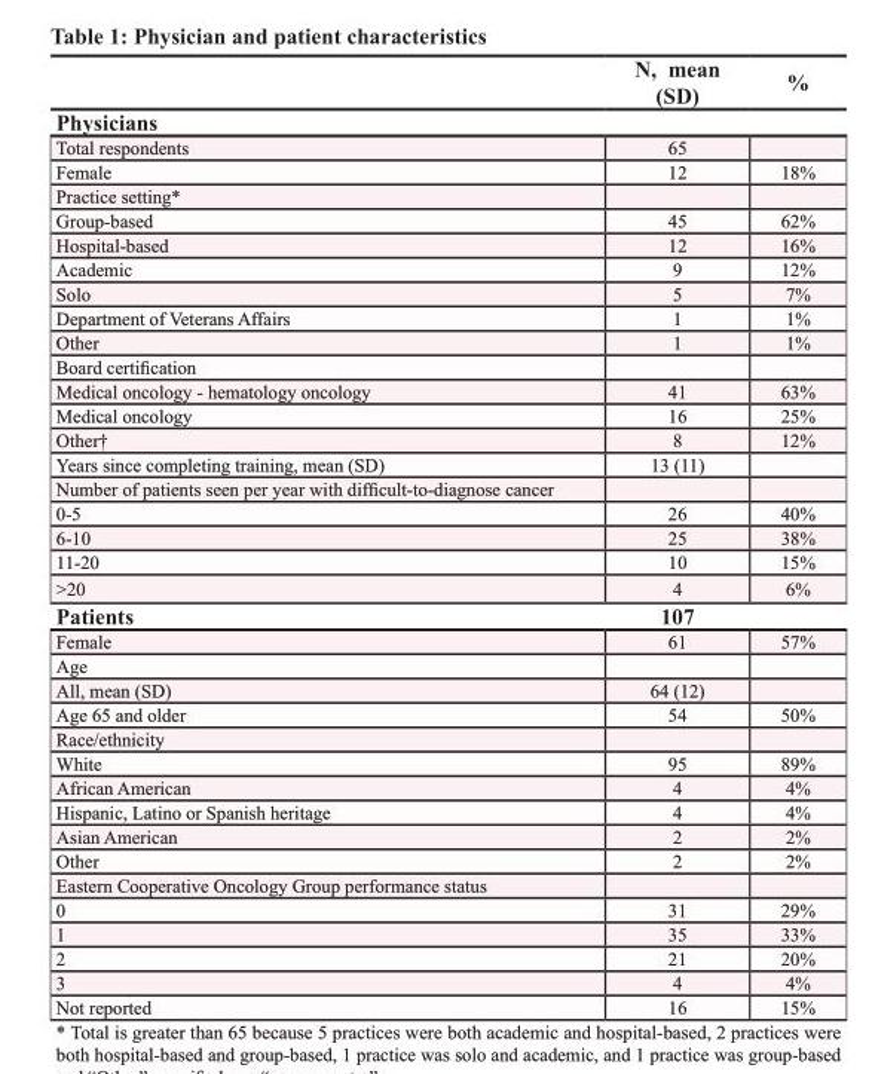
<table><thead><tr><td></td><td>N, mean (SD)</td><td>%</td></tr></thead><tbody><tr><td colspan="3">Physicians</td></tr><tr><td>Total respondents</td><td>65</td><td></td></tr><tr><td>Female</td><td>12</td><td>18%</td></tr><tr><td colspan="3">Practice setting*</td></tr><tr><td>Group-based</td><td>45</td><td>62%</td></tr><tr><td>Hospital-based</td><td>12</td><td>16%</td></tr><tr><td>Academic</td><td>9</td><td>12%</td></tr><tr><td>Solo</td><td>5</td><td>7%</td></tr><tr><td>Department of Veterans Affairs</td><td>1</td><td>1%</td></tr><tr><td>Other</td><td>1</td><td>1%</td></tr><tr><td colspan="3">Board certification</td></tr><tr><td>Medical oncology - hematology oncology</td><td>41</td><td>63%</td></tr><tr><td>Medical oncology</td><td>16</td><td>25%</td></tr><tr><td>Other<sup>†</sup></td><td>8</td><td>12%</td></tr><tr><td>Years since completing training, mean (SD)</td><td>13 (11)</td><td></td></tr><tr><td colspan="3">Number of patients seen per year with difficult-to-diagnose cancer</td></tr><tr><td>0-5</td><td>26</td><td>40%</td></tr><tr><td>6-10</td><td>25</td><td>38%</td></tr><tr><td>11-20</td><td>10</td><td>15%</td></tr><tr><td>&gt;20</td><td>4</td><td>6%</td></tr><tr><td>Patients</td><td>107</td><td></td></tr><tr><td>Female</td><td>61</td><td>57%</td></tr><tr><td colspan="3">Age</td></tr><tr><td>All, mean (SD)</td><td>64 (12)</td><td></td></tr><tr><td>Age 65 and older</td><td>54</td><td>50%</td></tr><tr><td colspan="3">Race/ethnicity</td></tr><tr><td>White</td><td>95</td><td>89%</td></tr><tr><td>African American</td><td>4</td><td>4%</td></tr><tr><td>Hispanic, Latino or Spanish heritage</td><td>4</td><td>4%</td></tr><tr><td>Asian American</td><td>2</td><td>2%</td></tr><tr><td>Other</td><td>2</td><td>2%</td></tr><tr><td colspan="3">Eastern Cooperative Oncology Group performance status</td></tr><tr><td>0</td><td>31</td><td>29%</td></tr><tr><td>1</td><td>35</td><td>33%</td></tr><tr><td>2</td><td>21</td><td>20%</td></tr><tr><td>3</td><td>4</td><td>4%</td></tr><tr><td>Not reported</td><td>16</td><td>15%</td></tr></tbody></table>